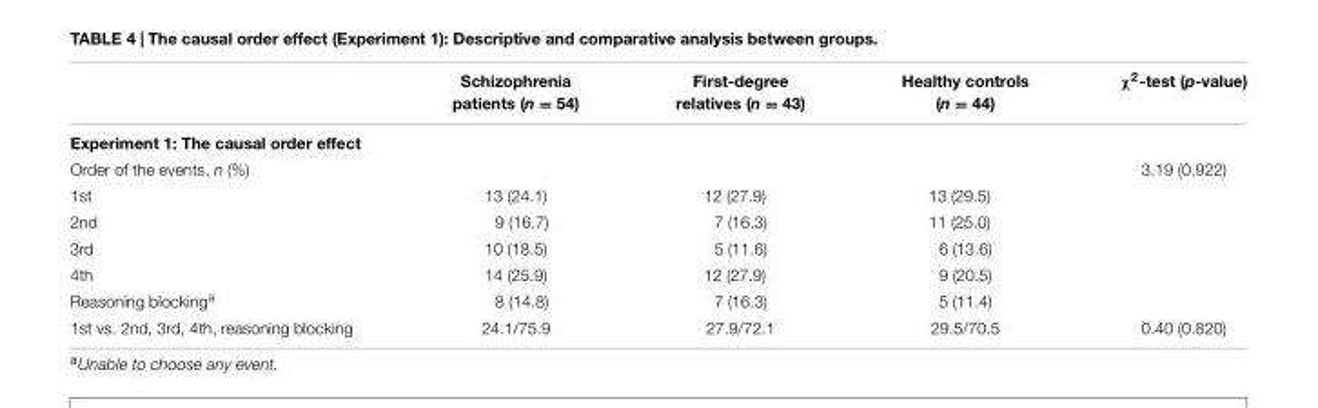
<table><thead><tr><td></td><td>Schizophrenia patients (n = 54)</td><td>First-degree relatives (n = 43)</td><td>Healthy controls (n = 44)</td><td>χ<sup>2</sup>-test (p-value)</td></tr></thead><tbody><tr><td colspan="5">Experiment 1: The causal order effect</td></tr><tr><td>Order of the events, n (%)</td><td></td><td></td><td></td><td>3.19 (0.922)</td></tr><tr><td>1st</td><td>13 (24.1)</td><td>12 (27.9)</td><td>13 (29.5)</td><td></td></tr><tr><td>2nd</td><td>9 (16.7)</td><td>7 (16.3)</td><td>11 (25.0)</td><td></td></tr><tr><td>3rd</td><td>10 (18.5)</td><td>5 (11.6)</td><td>6 (13.6)</td><td></td></tr><tr><td>4th</td><td>14 (25.9)</td><td>12 (27.9)</td><td>9 (20.5)</td><td></td></tr><tr><td>Reasoning blocking<sup>a</sup></td><td>8 (14.8)</td><td>7 (16.3)</td><td>5 (11.4)</td><td></td></tr><tr><td>1st vs. 2nd, 3rd, 4th, reasoning blocking</td><td>24.1/75.9</td><td>27.9/72.1</td><td>29.5/70.5</td><td>0.40 (0.820)</td></tr></tbody></table>